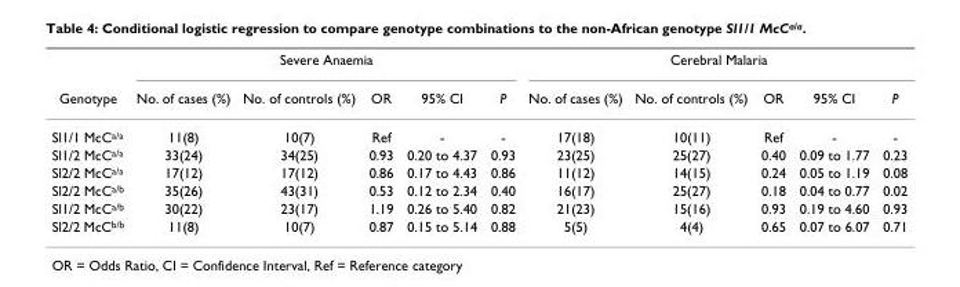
<table><thead><tr><td rowspan="2">Genotype</td><td colspan="5">Severe Anaemia</td><td colspan="5">Cerebral Malaria</td></tr><tr><td>No. of cases (%)</td><td>No. of controls (%)</td><td>OR</td><td>95% CI</td><td>P</td><td>No. of cases (%)</td><td>No. of controls (%)</td><td>OR</td><td>95% CI</td><td>P</td></tr></thead><tbody><tr><td>Sl1/1 McC<sup>a/a</sup></td><td>11(8)</td><td>10(7)</td><td>Ref</td><td>-</td><td>-</td><td>17(18)</td><td>10(11)</td><td>Ref</td><td>-</td><td>-</td></tr><tr><td>Sl1/2 McC<sup>a/a</sup></td><td>33(24)</td><td>34(25)</td><td>0.93</td><td>0.20 to 4.37</td><td>0.93</td><td>23(25)</td><td>25(27)</td><td>0.40</td><td>0.09 to 1.77</td><td>0.23</td></tr><tr><td>Sl2/2 McC<sup>a/a</sup></td><td>17(12)</td><td>17(12)</td><td>0.86</td><td>0.17 to 4.43</td><td>0.86</td><td>11(12)</td><td>14(15)</td><td>0.24</td><td>0.05 to 1.19</td><td>0.08</td></tr><tr><td>Sl2/2 McC<sup>a/b</sup></td><td>35(26)</td><td>43(31)</td><td>0.53</td><td>0.12 to 2.34</td><td>0.40</td><td>16(17)</td><td>25(27)</td><td>0.18</td><td>0.04 to 0.77</td><td>0.02</td></tr><tr><td>Sl1/2 McC<sup>a/b</sup></td><td>30(22)</td><td>23(17)</td><td>1.19</td><td>0.26 to 5.40</td><td>0.82</td><td>21(23)</td><td>15(16)</td><td>0.93</td><td>0.19 to 4.60</td><td>0.93</td></tr><tr><td>Sl2/2 McC<sup>b/b</sup></td><td>11(8)</td><td>10(7)</td><td>0.87</td><td>0.15 to 5.14</td><td>0.88</td><td>5(5)</td><td>4(4)</td><td>0.65</td><td>0.07 to 6.07</td><td>0.71</td></tr></tbody></table>